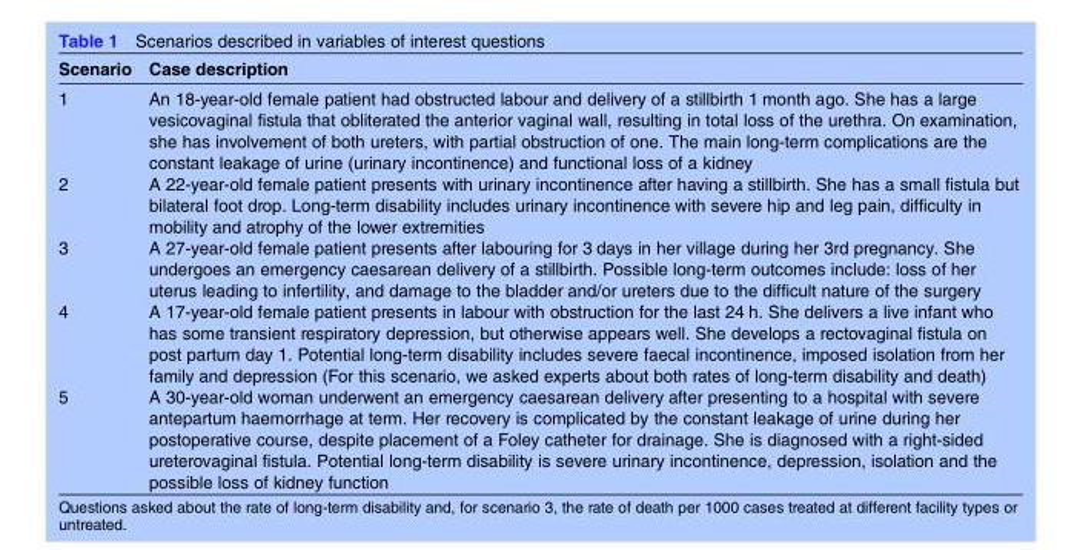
<table><thead><tr><td>Scenario</td><td>Case description</td></tr></thead><tbody><tr><td>1</td><td>An 18-year-old female patient had obstructed labour and delivery of a stillbirth 1 month ago. She has a large vesicovaginal fistula that obliterated the anterior vaginal wall, resulting in total loss of the urethra. On examination, she has involvement of both ureters, with partial obstruction of one. The main long-term complications are the constant leakage of urine (urinary incontinence) and functional loss of a kidney</td></tr><tr><td>2</td><td>A 22-year-old female patient presents with urinary incontinence after having a stillbirth. She has a small fistula but bilateral foot drop. Long-term disability includes urinary incontinence with severe hip and leg pain, difficulty in mobility and atrophy of the lower extremities</td></tr><tr><td>3</td><td>A 27-year-old female patient presents after labouring for 3 days in her village during her 3rd pregnancy. She undergoes an emergency caesarean delivery of a stillbirth. Possible long-term outcomes include: loss of her uterus leading to infertility, and damage to the bladder and/or ureters due to the difficult nature of the surgery</td></tr><tr><td>4</td><td>A 17-year-old female patient presents in labour with obstruction for the last 24 h. She delivers a live infant who has some transient respiratory depression, but otherwise appears well. She develops a rectovaginal fistula on post partum day 1. Potential long-term disability includes severe faecal incontinence, imposed isolation from her family and depression (For this scenario, we asked experts about both rates of long-term disability and death)</td></tr><tr><td>5</td><td>A 30-year-old woman underwent an emergency caesarean delivery after presenting to a hospital with severe antepartum haemorrhage at term. Her recovery is complicated by the constant leakage of urine during her postoperative course, despite placement of a Foley catheter for drainage. She is diagnosed with a right-sided ureterovaginal fistula. Potential long-term disability is severe urinary incontinence, depression, isolation and the possible loss of kidney function</td></tr></tbody></table>